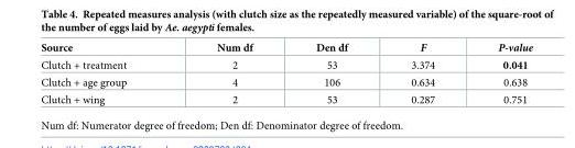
<table><thead><tr><td>Source</td><td>Num df</td><td>Den df</td><td>F</td><td>P-value</td></tr></thead><tbody><tr><td>Clutch + treatment</td><td>2</td><td>53</td><td>3.374</td><td>0.041</td></tr><tr><td>Clutch + age group</td><td>4</td><td>106</td><td>0.634</td><td>0.638</td></tr><tr><td>Clutch + wing</td><td>2</td><td>53</td><td>0.287</td><td>0.751</td></tr></tbody></table>